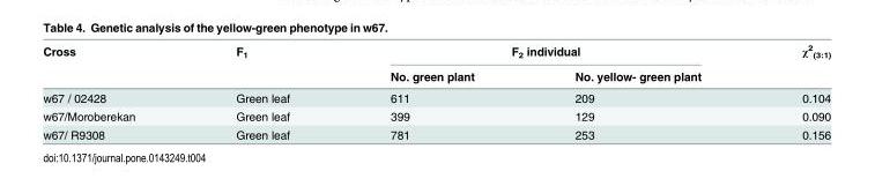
<table><thead><tr><td rowspan="2">Cross</td><td rowspan="2">F<sub>1</sub></td><td colspan="2">F<sub>2</sub> individual</td><td rowspan="2">χ<sup>2</sup> <sub>(3:1)</sub></td></tr><tr><td>No. green plant</td><td>No. yellow- green plant</td></tr></thead><tbody><tr><td>w67 / 02428</td><td>Green leaf</td><td>611</td><td>209</td><td>0.104</td></tr><tr><td>w67/Moroberekan</td><td>Green leaf</td><td>399</td><td>129</td><td>0.090</td></tr><tr><td>w67/ R9308</td><td>Green leaf</td><td>781</td><td>253</td><td>0.156</td></tr></tbody></table>